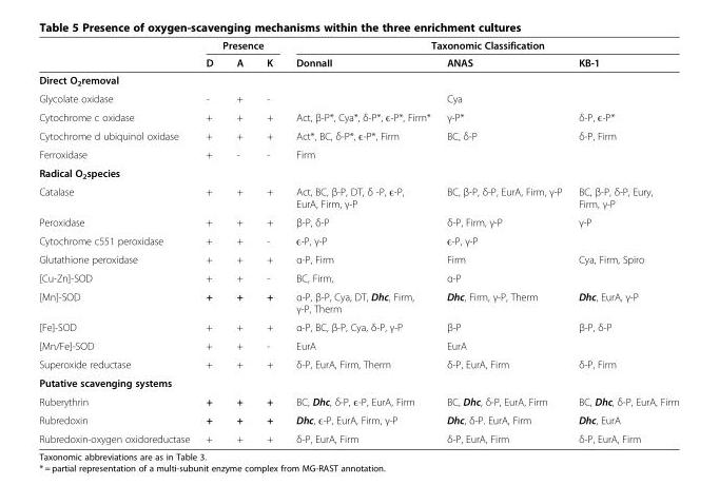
<table><thead><tr><td rowspan="2"></td><td colspan="3">Presence</td><td colspan="3">Taxonomic Classification</td></tr><tr><td>D</td><td>A</td><td>K</td><td>DonnaII</td><td>ANAS</td><td>KB-1</td></tr></thead><tbody><tr><td colspan="7">Direct O<sub>2</sub>removal</td></tr><tr><td>Glycolate oxidase</td><td>-</td><td>+</td><td>-</td><td></td><td>Cya</td><td></td></tr><tr><td>Cytochrome c oxidase</td><td>+</td><td>+</td><td>+</td><td>Act, β-P*, Cya*, δ-P*, ϵ-P*, Firm*</td><td>γ-P*</td><td>δ-P, ϵ-P*</td></tr><tr><td>Cytochrome d ubiquinol oxidase</td><td>+</td><td>+</td><td>+</td><td>Act*, BC, δ-P*, ϵ-P*, Firm</td><td>BC, δ-P</td><td>δ-P, Firm</td></tr><tr><td>Ferroxidase</td><td>+</td><td>-</td><td>-</td><td>Firm</td><td></td><td></td></tr><tr><td colspan="7">Radical O<sub>2</sub>species</td></tr><tr><td>Catalase</td><td>+</td><td>+</td><td>+</td><td>Act, BC, β-P, DT, δ -P, ϵ-P, EurA, Firm, γ-P</td><td>BC, β-P, δ-P, EurA, Firm, γ-P</td><td>BC, β-P, δ-P, Eury, Firm, γ-P</td></tr><tr><td>Peroxidase</td><td>+</td><td>+</td><td>+</td><td>β-P, δ-P</td><td>δ-P, Firm, γ-P</td><td>γ-P</td></tr><tr><td>Cytochrome c551 peroxidase</td><td>+</td><td>+</td><td>-</td><td>ϵ-P, γ-P</td><td>ϵ-P, γ-P</td><td></td></tr><tr><td>Glutathione peroxidase</td><td>+</td><td>+</td><td>+</td><td>α-P, Firm</td><td>Firm</td><td>Cya, Firm, Spiro</td></tr><tr><td>[Cu-Zn]-SOD</td><td>+</td><td>+</td><td>-</td><td>BC, Firm,</td><td>α-P</td><td></td></tr><tr><td>[Mn]-SOD</td><td>+</td><td>+</td><td>+</td><td>α-P, β-P, Cya, DT, Dhc, Firm, γ-P, Therm</td><td>Dhc, Firm, γ-P, Therm</td><td>Dhc, EurA, γ-P</td></tr><tr><td>[Fe]-SOD</td><td>+</td><td>+</td><td>+</td><td>α-P, BC, β-P, Cya, δ-P, γ-P</td><td>β-P</td><td>β-P, δ-P</td></tr><tr><td>[Mn/Fe]-SOD</td><td>+</td><td>+</td><td>-</td><td>EurA</td><td>EurA</td><td></td></tr><tr><td>Superoxide reductase</td><td>+</td><td>+</td><td>+</td><td>δ-P, EurA, Firm, Therm</td><td>δ-P, EurA, Firm</td><td>δ-P, Firm</td></tr><tr><td colspan="7">Putative scavenging systems</td></tr><tr><td>Ruberythrin</td><td>+</td><td>+</td><td>+</td><td>BC, Dhc, δ-P, ϵ-P, EurA, Firm</td><td>BC, Dhc, δ-P, EurA, Firm</td><td>BC, Dhc, δ-P, EurA, Firm</td></tr><tr><td>Rubredoxin</td><td>+</td><td>+</td><td>+</td><td>Dhc, ϵ-P, EurA, Firm, γ-P</td><td>Dhc, δ-P. EurA, Firm</td><td>Dhc, EurA</td></tr><tr><td>Rubredoxin-oxygen oxidoreductase</td><td>+</td><td>+</td><td>+</td><td>δ-P, EurA, Firm</td><td>δ-P, EurA, Firm</td><td>δ-P, EurA, Firm</td></tr></tbody></table>